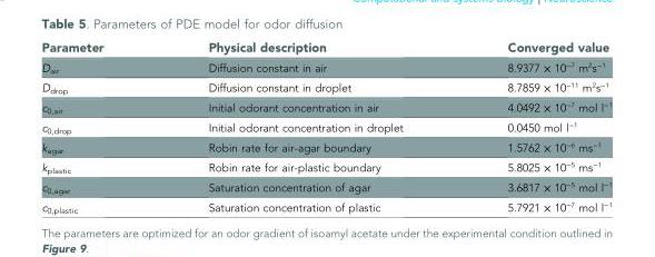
<table><thead><tr><td>Parameter</td><td>Physical description</td><td>Converged value</td></tr></thead><tbody><tr><td>D<sub>air</sub></td><td>Diffusion constant in air</td><td>8.9377 × 10<sup>−7</sup> m<sup>2</sup>s<sup>−1</sup></td></tr><tr><td>D<sub>drop</sub></td><td>Diffusion constant in droplet</td><td>8.7859 × 10<sup>−11</sup> m<sup>2</sup>s<sup>−1</sup></td></tr><tr><td>c<sub>0,air</sub></td><td>Initial odorant concentration in air</td><td>4.0492 × 10<sup>−7</sup> mol l<sup>−1</sup></td></tr><tr><td>c<sub>0,drop</sub></td><td>Initial odorant concentration in droplet</td><td>0.0450 mol l<sup>−1</sup></td></tr><tr><td>k<sub>agar</sub></td><td>Robin rate for air-agar boundary</td><td>1.5762 × 10<sup>−6</sup> ms<sup>−1</sup></td></tr><tr><td>k<sub>plastic</sub></td><td>Robin rate for air-plastic boundary</td><td>5.8025 × 10<sup>−5</sup> ms<sup>−1</sup></td></tr><tr><td>c<sub>0,agar</sub></td><td>Saturation concentration of agar</td><td>3.6817 × 10<sup>−5</sup> mol l<sup>−1</sup></td></tr><tr><td>c<sub>0,plastic</sub></td><td>Saturation concentration of plastic</td><td>5.7921 × 10<sup>−7</sup> mol l<sup>−1</sup></td></tr></tbody></table>